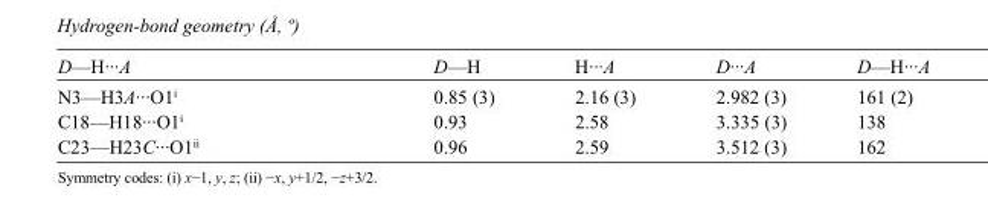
<table><tbody><tr><td>D—H···A</td><td>D—H</td><td>H···A</td><td>D···A</td><td>D—H···A</td></tr><tr><td>N3—H3A···O1<sup>i</sup></td><td>0.85 (3)</td><td>2.16 (3)</td><td>2.982 (3)</td><td>161 (2)</td></tr><tr><td>C18—H18···O1<sup>i</sup></td><td>0.93</td><td>2.58</td><td>3.335 (3)</td><td>138</td></tr><tr><td>C23—H23C···O1<sup>ii</sup></td><td>0.96</td><td>2.59</td><td>3.512 (3)</td><td>162</td></tr></tbody></table>